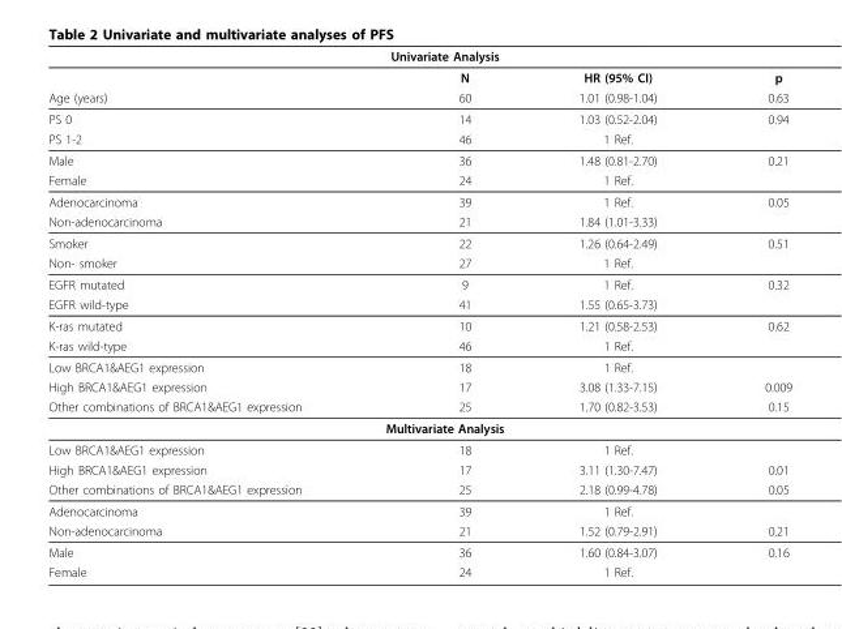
<table><thead><tr><td colspan="4">Univariate Analysis</td></tr><tr><td></td><td>N</td><td>HR (95% CI)</td><td>p</td></tr></thead><tbody><tr><td>Age (years)</td><td>60</td><td>1.01 (0.98-1.04)</td><td>0.63</td></tr><tr><td>PS 0</td><td>14</td><td>1.03 (0.52-2.04)</td><td>0.94</td></tr><tr><td>PS 1-2</td><td>46</td><td>1 Ref.</td><td></td></tr><tr><td>Male</td><td>36</td><td>1.48 (0.81-2.70)</td><td>0.21</td></tr><tr><td>Female</td><td>24</td><td>1 Ref.</td><td></td></tr><tr><td>Adenocarcinoma</td><td>39</td><td>1 Ref.</td><td>0.05</td></tr><tr><td>Non-adenocarcinoma</td><td>21</td><td>1.84 (1.01-3.33)</td><td></td></tr><tr><td>Smoker</td><td>22</td><td>1.26 (0.64-2.49)</td><td>0.51</td></tr><tr><td>Non- smoker</td><td>27</td><td>1 Ref.</td><td></td></tr><tr><td>EGFR mutated</td><td>9</td><td>1 Ref.</td><td>0.32</td></tr><tr><td>EGFR wild-type</td><td>41</td><td>1.55 (0.65-3.73)</td><td></td></tr><tr><td>K-ras mutated</td><td>10</td><td>1.21 (0.58-2.53)</td><td>0.62</td></tr><tr><td>K-ras wild-type</td><td>46</td><td>1 Ref.</td><td></td></tr><tr><td>Low BRCA1&amp;AEG1 expression</td><td>18</td><td>1 Ref.</td><td></td></tr><tr><td>High BRCA1&amp;AEG1 expression</td><td>17</td><td>3.08 (1.33-7.15)</td><td>0.009</td></tr><tr><td>Other combinations of BRCA1&amp;AEG1 expression</td><td>25</td><td>1.70 (0.82-3.53)</td><td>0.15</td></tr><tr><td colspan="4">Multivariate Analysis</td></tr><tr><td>Low BRCA1&amp;AEG1 expression</td><td>18</td><td>1 Ref.</td><td></td></tr><tr><td>High BRCA1&amp;AEG1 expression</td><td>17</td><td>3.11 (1.30-7.47)</td><td>0.01</td></tr><tr><td>Other combinations of BRCA1&amp;AEG1 expression</td><td>25</td><td>2.18 (0.99-4.78)</td><td>0.05</td></tr><tr><td>Adenocarcinoma</td><td>39</td><td>1 Ref.</td><td></td></tr><tr><td>Non-adenocarcinoma</td><td>21</td><td>1.52 (0.79-2.91)</td><td>0.21</td></tr><tr><td>Male</td><td>36</td><td>1.60 (0.84-3.07)</td><td>0.16</td></tr><tr><td>Female</td><td>24</td><td>1 Ref.</td><td></td></tr></tbody></table>